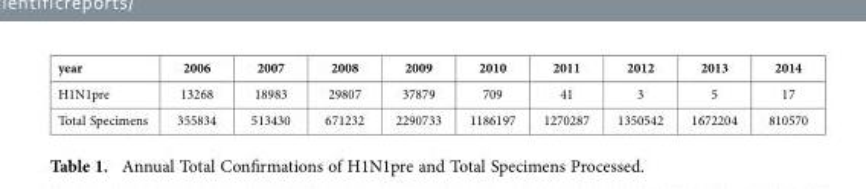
<table><tbody><tr><td>year</td><td>2006</td><td>2007</td><td>2008</td><td>2009</td><td>2010</td><td>2011</td><td>2012</td><td>2013</td><td>2014</td></tr><tr><td>H1N1pre</td><td>13268</td><td>18983</td><td>29807</td><td>37879</td><td>709</td><td>41</td><td>3</td><td>5</td><td>17</td></tr><tr><td>Total Specimens</td><td>355834</td><td>513430</td><td>671232</td><td>2290733</td><td>1186197</td><td>1270287</td><td>1350542</td><td>1672204</td><td>810570</td></tr></tbody></table>